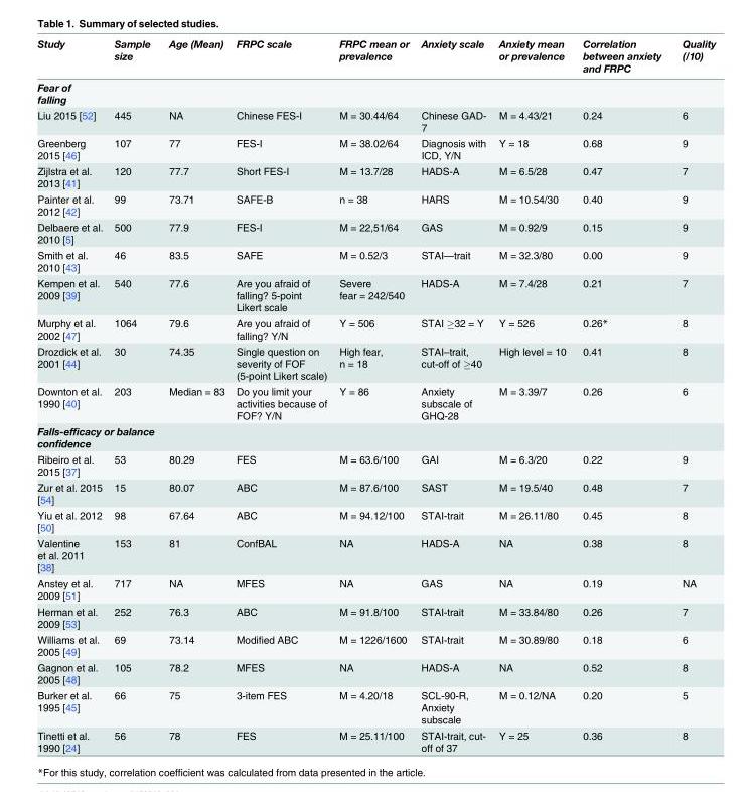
<table><thead><tr><td>Study</td><td>Sample size</td><td>Age (Mean)</td><td>FRPC scale</td><td>FRPC mean or prevalence</td><td>Anxiety scale</td><td>Anxiety mean or prevalence</td><td>Correlation between anxiety and FRPC</td><td>Quality (/10)</td></tr></thead><tbody><tr><td colspan="9">Fear of falling</td></tr><tr><td>Liu 2015 [52]</td><td>445</td><td>NA</td><td>Chinese FES-I</td><td>M = 30.44/64</td><td>Chinese GAD- 7</td><td>M = 4.43/21</td><td>0.24</td><td>6</td></tr><tr><td>Greenberg 2015 [46]</td><td>107</td><td>77</td><td>FES-I</td><td>M = 38.02/64</td><td>Diagnosis with ICD, Y/N</td><td>Y = 18</td><td>0.68</td><td>9</td></tr><tr><td>Zijlstra et al. 2013 [41]</td><td>120</td><td>77.7</td><td>Short FES-I</td><td>M = 13.7/28</td><td>HADS-A</td><td>M = 6.5/28</td><td>0.47</td><td>7</td></tr><tr><td>Painter et al. 2012 [42]</td><td>99</td><td>73.71</td><td>SAFE-B</td><td>n = 38</td><td>HARS</td><td>M = 10.54/30</td><td>0.40</td><td>9</td></tr><tr><td>Delbaere et al. 2010 [5]</td><td>500</td><td>77.9</td><td>FES-I</td><td>M = 22,51/64</td><td>GAS</td><td>M = 0.92/9</td><td>0.15</td><td>9</td></tr><tr><td>Smith et al. 2010 [43]</td><td>46</td><td>83.5</td><td>SAFE</td><td>M = 0.52/3</td><td>STAI—trait</td><td>M = 32.3/80</td><td>0.00</td><td>9</td></tr><tr><td>Kempen et al. 2009 [39]</td><td>540</td><td>77.6</td><td>Are you afraid of falling? 5-point Likert scale</td><td>Severe fear = 242/540</td><td>HADS-A</td><td>M = 7.4/28</td><td>0.21</td><td>7</td></tr><tr><td>Murphy et al. 2002 [47]</td><td>1064</td><td>79.6</td><td>Are you afraid of falling? Y/N</td><td>Y = 506</td><td>STAI ≥32 = Y</td><td>Y = 526</td><td>0.26*</td><td>8</td></tr><tr><td>Drozdick et al. 2001 [44]</td><td>30</td><td>74.35</td><td>Single question on severity of FOF (5-point Likert scale)</td><td>High fear, n = 18</td><td>STAI–trait, cut-off of ≥40</td><td>High level = 10</td><td>0.41</td><td>8</td></tr><tr><td>Downton et al. 1990 [40]</td><td>203</td><td>Median = 83</td><td>Do you limit your activities because of FOF? Y/N</td><td>Y = 86</td><td>Anxiety subscale of GHQ-28</td><td>M = 3.39/7</td><td>0.26</td><td>6</td></tr><tr><td colspan="9">Falls-efficacy or balance confidence</td></tr><tr><td>Ribeiro et al. 2015 [37]</td><td>53</td><td>80.29</td><td>FES</td><td>M = 63.6/100</td><td>GAI</td><td>M = 6.3/20</td><td>0.22</td><td>9</td></tr><tr><td>Zur et al. 2015 [54]</td><td>15</td><td>80.07</td><td>ABC</td><td>M = 87.6/100</td><td>SAST</td><td>M = 19.5/40</td><td>0.48</td><td>7</td></tr><tr><td>Yiu et al. 2012 [50]</td><td>98</td><td>67.64</td><td>ABC</td><td>M = 94.12/100</td><td>STAI-trait</td><td>M = 26.11/80</td><td>0.45</td><td>8</td></tr><tr><td>Valentine et al. 2011 [38]</td><td>153</td><td>81</td><td>ConfBAL</td><td>NA</td><td>HADS-A</td><td>NA</td><td>0.38</td><td>8</td></tr><tr><td>Anstey et al. 2009 [51]</td><td>717</td><td>NA</td><td>MFES</td><td>NA</td><td>GAS</td><td>NA</td><td>0.19</td><td>NA</td></tr><tr><td>Herman et al. 2009 [53]</td><td>252</td><td>76.3</td><td>ABC</td><td>M = 91.8/100</td><td>STAI-trait</td><td>M = 33.84/80</td><td>0.26</td><td>7</td></tr><tr><td>Williams et al. 2005 [49]</td><td>69</td><td>73.14</td><td>Modified ABC</td><td>M = 1226/1600</td><td>STAI-trait</td><td>M = 30.89/80</td><td>0.18</td><td>6</td></tr><tr><td>Gagnon et al. 2005 [48]</td><td>105</td><td>78.2</td><td>MFES</td><td>NA</td><td>HADS-A</td><td>NA</td><td>0.52</td><td>8</td></tr><tr><td>Burker et al. 1995 [45]</td><td>66</td><td>75</td><td>3-item FES</td><td>M = 4.20/18</td><td>SCL-90-R, Anxiety subscale</td><td>M = 0.12/NA</td><td>0.20</td><td>5</td></tr><tr><td>Tinetti et al. 1990 [24]</td><td>56</td><td>78</td><td>FES</td><td>M = 25.11/100</td><td>STAI-trait, cut- off of 37</td><td>Y = 25</td><td>0.36</td><td>8</td></tr></tbody></table>